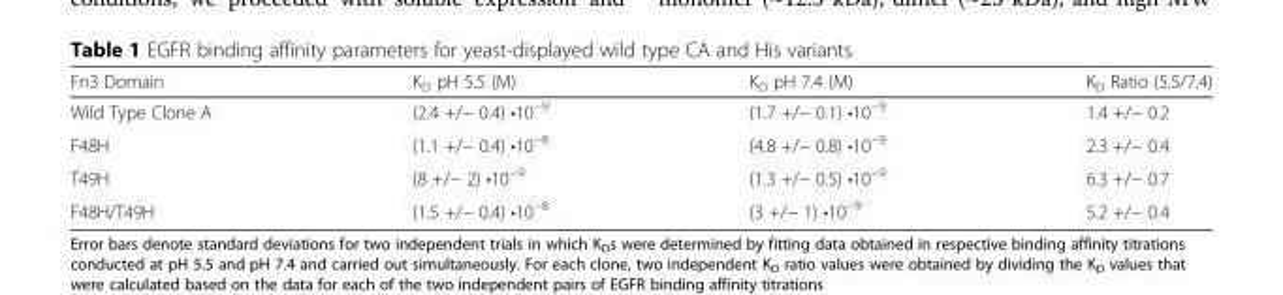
<table><thead><tr><td>Fn3 Domain</td><td>K<sub>D</sub> pH 5.5 (M)</td><td>K<sub>D</sub> pH 7.4 (M)</td><td>K<sub>D</sub> Ratio (5.5/7.4)</td></tr></thead><tbody><tr><td>Wild Type Clone A</td><td>(2.4 +/− 0.4) •10<sup>−9</sup></td><td>(1.7 +/− 0.1) •10<sup>−9</sup></td><td>1.4 +/− 0.2</td></tr><tr><td>F48H</td><td>(1.1 +/− 0.4) •10<sup>−8</sup></td><td>(4.8 +/− 0.8) •10<sup>−9</sup></td><td>2.3 +/− 0.4</td></tr><tr><td>T49H</td><td>(8 +/− 2) •10<sup>−9</sup></td><td>(1.3 +/− 0.5) •10<sup>−9</sup></td><td>6.3 +/− 0.7</td></tr><tr><td>F48H/T49H</td><td>(1.5 +/− 0.4) •10<sup>−8</sup></td><td>(3 +/− 1) •10<sup>−9</sup></td><td>5.2 +/− 0.4</td></tr></tbody></table>